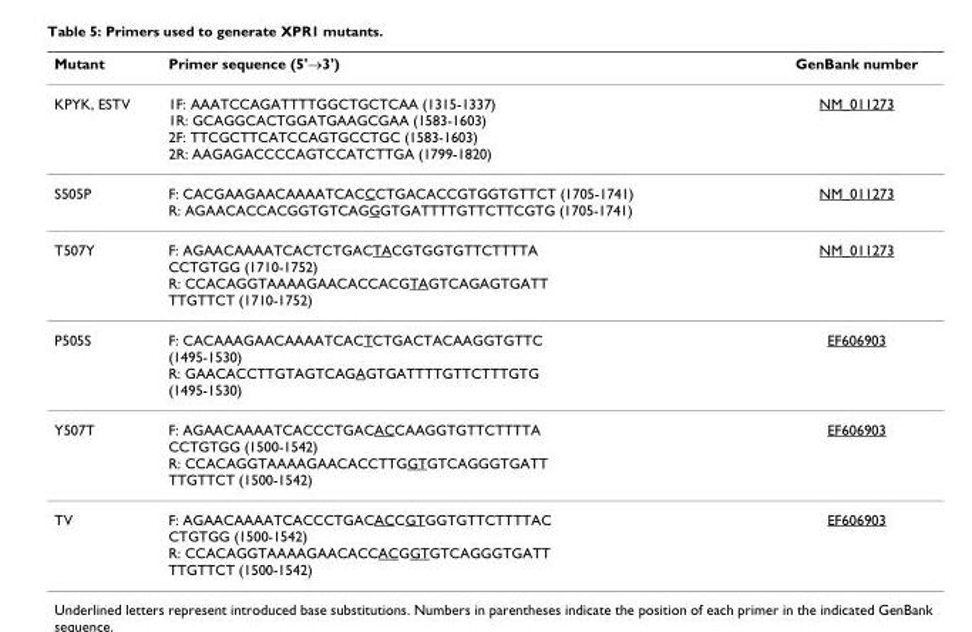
<table><thead><tr><td>Mutant</td><td>Primer sequence (5&#x27;→3&#x27;)</td><td>GenBank number</td></tr></thead><tbody><tr><td>KPYK, ESTV</td><td>1F: AAATCCAGATTTTGGCTGCTCAA (1315-1337) 1R: GCAGGCACTGGATGAAGCGAA (1583-1603) 2F: TTCGCTTCATCCAGTGCCTGC (1583-1603) 2R: AAGAGACCCCAGTCCATCTTGA (1799-1820)</td><td>NM_011273</td></tr><tr><td>S505P</td><td>F: CACGAAGAACAAAATCACCCTGACACCGTGGTGTTCT (1705-1741) R: AGAACACCACGGTGTCAGGGTGATTTTGTTCTTCGTG (1705-1741)</td><td>NM_011273</td></tr><tr><td>T507Y</td><td>F: AGAACAAAATCACTCTGACTACGTGGTGTTCTTTTA CCTGTGG (1710-1752) R: CCACAGGTAAAAGAACACCACGTAGTCAGAGTGATT TTGTTCT (1710-1752)</td><td>NM_011273</td></tr><tr><td>P505S</td><td>F: CACAAAGAACAAAATCACTCTGACTACAAGGTGTTC (1495-1530) R: GAACACCTTGTAGTCAGAGTGATTTTGTTCTTTGTG (1495-1530)</td><td>EF606903</td></tr><tr><td>Y507T</td><td>F: AGAACAAAATCACCCTGACACCAAGGTGTTCTTTTA CCTGTGG (1500-1542) R: CCACAGGTAAAAGAACACCTTGGTGTCAGGGTGATT TTGTTCT (1500-1542)</td><td>EF606903</td></tr><tr><td>TV</td><td>F: AGAACAAAATCACCCTGACACCGTGGTGTTCTTTTAC CTGTGG (1500-1542) R: CCACAGGTAAAAGAACACCACGGTGTCAGGGTGATT TTGTTCT (1500-1542)</td><td>EF606903</td></tr></tbody></table>